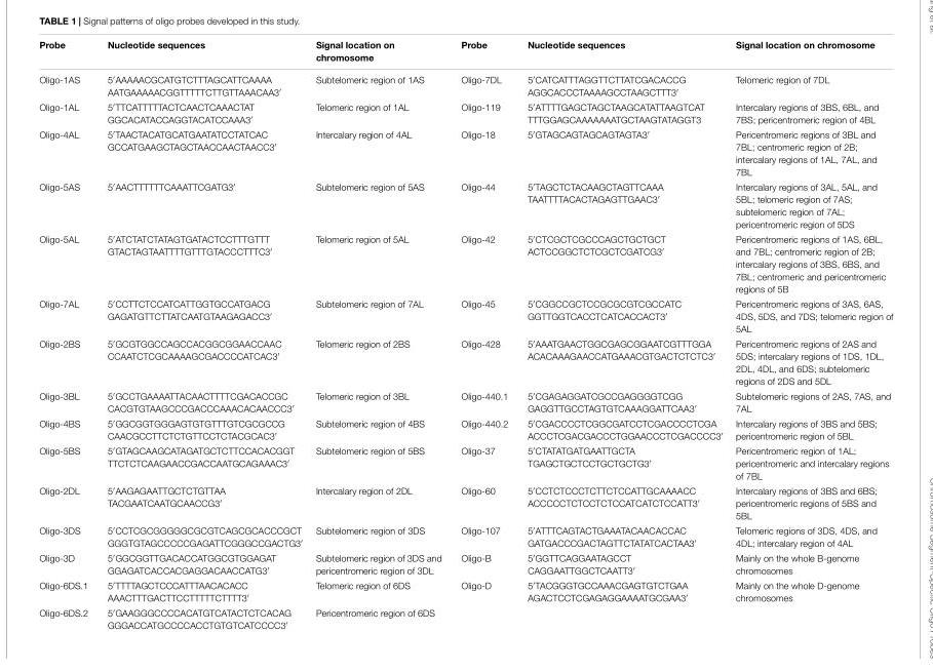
<table><thead><tr><td>Probe</td><td>Nucleotide sequences</td><td>Signal location on chromosome</td><td>Probe</td><td>Nucleotide sequences</td><td>Signal location on chromosome</td></tr></thead><tbody><tr><td>Oligo-1AS</td><td>5′AAAAACGCATGTCTTTAGCATTCAAAA AATGAAAAACGGTTTTTCTTGTTAAACAA3′</td><td>Subtelomeric region of 1AS</td><td>Oligo-7DL</td><td>5′CATCATTTAGGTTCTTATCGACACCG AGGCACCCTAAAAGCCTAAGCTTT3′</td><td>Telomeric region of 7DL</td></tr><tr><td>Oligo-1AL</td><td>5′TTCATTTTTACTCAACTCAAACTAT GGCACATACCAGGTACATCCAAA3′</td><td>Telomeric region of 1AL</td><td>Oligo-119</td><td>5′ATTTTGAGCTAGCTAAGCATATTAAGTCAT TTTGGAGCAAAAAAATGCTAAGTATAGGT3</td><td>Intercalary regions of 3BS, 6BL, and 7BS; pericentromeric region of 4BL</td></tr><tr><td>Oligo-4AL</td><td>5′TAACTACATGCATGAATATCCTATCAC GCCATGAAGCTAGCTAACCAACTAACC3′</td><td>Intercalary region of 4AL</td><td>Oligo-18</td><td>5′GTAGCAGTAGCAGTAGTA3′</td><td>Pericentromeric regions of 3BL and 7BL; centromeric region of 2B; intercalary regions of 1AL, 7AL, and 7BL</td></tr><tr><td>Oligo-5AS</td><td>5′AACTTTTTTCAAATTCGATG3′</td><td>Subtelomeric region of 5AS</td><td>Oligo-44</td><td>5′TAGCTCTACAAGCTAGTTCAAA TAATTTTACACTAGAGTTGAAC3′</td><td>Intercalary regions of 3AL, 5AL, and 5BL; telomeric region of 7AS; subtelomeric region of 7AL; pericentromeric region of 5DS</td></tr><tr><td>Oligo-5AL</td><td>5′ATCTATCTATAGTGATACTCCTTTGTTT GTACTAGTAATTTTGTTTGTACCCTTTC3′</td><td>Telomeric region of 5AL</td><td>Oligo-42</td><td>5′CTCGCTCGCCCAGCTGCTGCT ACTCCGGCTCTCGCTCGATCG3′</td><td>Pericentromeric regions of 1AS, 6BL, and 7BL; centromeric region of 2B; intercalary regions of 3BS, 6BS, and 7BL; centromeric and pericentromeric regions of 5B</td></tr><tr><td>Oligo-7AL</td><td>5′CCTTCTCCATCATTGGTGCCATGACG GAGATGTTCTTATCAATGTAAGAGACC3′</td><td>Subtelomeric region of 7AL</td><td>Oligo-45</td><td>5′CGGCCGCTCCGCGCGTCGCCATC GGTTGGTCACCTCATCACCACT3′</td><td>Pericentromeric regions of 3AS, 6AS, 4DS, 5DS, and 7DS; telomeric region of 5AL</td></tr><tr><td>Oligo-2BS</td><td>5′GCGTGGCCAGCCACGGCGGAACCAAC CCAATCTCGCAAAAGCGACCCCATCAC3′</td><td>Telomeric region of 2BS</td><td>Oligo-428</td><td>5′AAATGAACTGGCGAGCGGAATCGTTTGGA ACACAAAGAACCATGAAACGTGACTCTCTC3′</td><td>Pericentromeric regions of 2AS and 5DS; intercalary regions of 1DS, 1DL, 2DL, 4DL, and 6DS; subtelomeric regions of 2DS and 5DL</td></tr><tr><td>Oligo-3BL</td><td>5′GCCTGAAAATTACAACTTTTCGACACCGC CACGTGTAAGCCCGACCCAAACACAACCC3′</td><td>Telomeric region of 3BL</td><td>Oligo-440.1</td><td>5′CGAGAGGATCGCCGAGGGGTCGG GAGGTTGCCTAGTGTCAAAGGATTCAA3′</td><td>Subtelomeric regions of 2AS, 7AS, and 7AL</td></tr><tr><td>Oligo-4BS</td><td>5′GGCGGTGGGAGTGTGTTTGTCGCGCCG CAACGCCTTCTCTGTTCCTCTACGCAC3′</td><td>Subtelomeric region of 4BS</td><td>Oligo-440.2</td><td>5′CGACCCCTCGGCGATCCTCGACCCCTCGA ACCCTCGACGACCCTGGAACCCTCGACCCC3′</td><td>Intercalary regions of 3BS and 5BS; pericentromeric region of 5BL</td></tr><tr><td>Oligo-5BS</td><td>5′GTAGCAAGCATAGATGCTCTTCCACACGGT TTCTCTCAAGAACCGACCAATGCAGAAAC3′</td><td>Subtelomeric region of 5BS</td><td>Oligo-37</td><td>5′CTATATGATGAATTGCTA TGAGCTGCTCCTGCTGCTG3′</td><td>Pericentromeric region of 1AL; pericentromeric and intercalary regions of 7BL</td></tr><tr><td>Oligo-2DL</td><td>5′AAGAGAATTGCTCTGTTAA TACGAATCAATGCAACCG3′</td><td>Intercalary region of 2DL</td><td>Oligo-60</td><td>5′CCTCTCCCTCTTCTCCATTGCAAAACC ACCCCCTCTCCTCTCCATCATCTCCATT3′</td><td>Intercalary regions of 3BS and 6BS; pericentromeric regions of 5BS and 5BL</td></tr><tr><td>Oligo-3DS</td><td>5′CCTCGCGGGGGCGCGTCAGCGCACCCGCT GGGTGTAGCCCCCGAGATTCGGGCCGACTG3′</td><td>Subtelomeric region of 3DS</td><td>Oligo-107</td><td>5′ATTTCAGTACTGAAATACAACACCAC GATGACCCGACTAGTTCTATATCACTAA3′</td><td>Telomeric regions of 3DS, 4DS, and 4DL; intercalary region of 4AL</td></tr><tr><td>Oligo-3D</td><td>5′GGCGGTTGACACCATGGCGTGGAGAT GGAGATCACCACGAGGACAACCATG3′</td><td>Subtelomeric region of 3DS and pericentromeric region of 3DL</td><td>Oligo-B</td><td>5′GGTTCAGGAATAGCCT CAGGAATTGGCTCAATT3′</td><td>Mainly on the whole B-genome chromosomes</td></tr><tr><td>Oligo-6DS.1</td><td>5′TTTTAGCTCCCATTTAACACACC AAACTTTGACTTCCTTTTTCTTTT3′</td><td>Telomeric region of 6DS</td><td>Oligo-D</td><td>5′TACGGGTGCCAAACGAGTGTCTGAA AGACTCCTCGAGAGGAAAATGCGAA3′</td><td>Mainly on the whole D-genome chromosomes</td></tr><tr><td>Oligo-6DS.2</td><td>5′GAAGGGCCCCACATGTCATACTCTCACAG GGGACCATGCCCCACCTGTGTCATCCCC3′</td><td>Pericentromeric region of 6DS</td><td></td><td></td><td></td></tr></tbody></table>